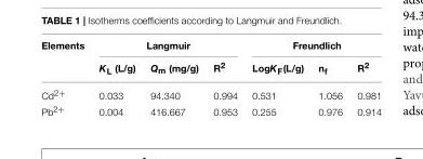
<table><thead><tr><td rowspan="2">Elements</td><td colspan="3">Langmuir</td><td colspan="3">Freundlich</td></tr><tr><td>K<sub>L</sub> (L/g)</td><td>Q<sub>m</sub> (mg/g)</td><td>R<sup>2</sup></td><td>LogK<sub>F</sub>(L/g)</td><td>n<sub>f</sub></td><td>R<sup>2</sup></td></tr></thead><tbody><tr><td>Cd<sup>2+</sup></td><td>0.033</td><td>94.340</td><td>0.994</td><td>0.531</td><td>1.056</td><td>0.981</td></tr><tr><td>Pb<sup>2+</sup></td><td>0.004</td><td>416.667</td><td>0.953</td><td>0.255</td><td>0.976</td><td>0.914</td></tr></tbody></table>